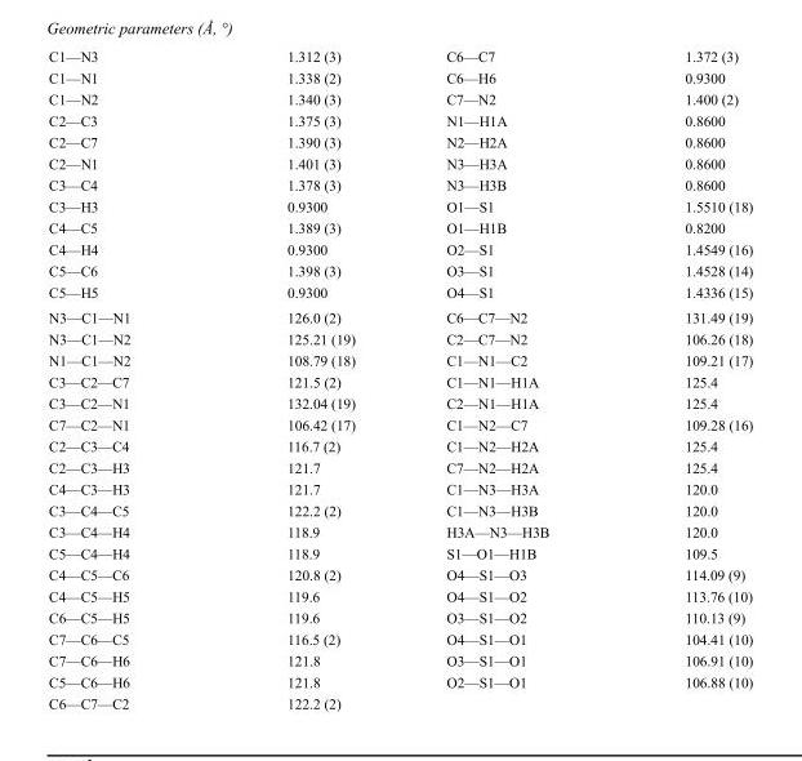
<table><tbody><tr><td>C1—N3</td><td>1.312 (3)</td><td>C6—C7</td><td>1.372 (3)</td></tr><tr><td>C1—N1</td><td>1.338 (2)</td><td>C6—H6</td><td>0.9300</td></tr><tr><td>C1—N2</td><td>1.340 (3)</td><td>C7—N2</td><td>1.400 (2)</td></tr><tr><td>C2—C3</td><td>1.375 (3)</td><td>N1—H1A</td><td>0.8600</td></tr><tr><td>C2—C7</td><td>1.390 (3)</td><td>N2—H2A</td><td>0.8600</td></tr><tr><td>C2—N1</td><td>1.401 (3)</td><td>N3—H3A</td><td>0.8600</td></tr><tr><td>C3—C4</td><td>1.378 (3)</td><td>N3—H3B</td><td>0.8600</td></tr><tr><td>C3—H3</td><td>0.9300</td><td>O1—S1</td><td>1.5510 (18)</td></tr><tr><td>C4—C5</td><td>1.389 (3)</td><td>O1—H1B</td><td>0.8200</td></tr><tr><td>C4—H4</td><td>0.9300</td><td>O2—S1</td><td>1.4549 (16)</td></tr><tr><td>C5—C6</td><td>1.398 (3)</td><td>O3—S1</td><td>1.4528 (14)</td></tr><tr><td>C5—H5</td><td>0.9300</td><td>O4—S1</td><td>1.4336 (15)</td></tr><tr><td>N3—C1—N1</td><td>126.0 (2)</td><td>C6—C7—N2</td><td>131.49 (19)</td></tr><tr><td>N3—C1—N2</td><td>125.21 (19)</td><td>C2—C7—N2</td><td>106.26 (18)</td></tr><tr><td>N1—C1—N2</td><td>108.79 (18)</td><td>C1—N1—C2</td><td>109.21 (17)</td></tr><tr><td>C3—C2—C7</td><td>121.5 (2)</td><td>C1—N1—H1A</td><td>125.4</td></tr><tr><td>C3—C2—N1</td><td>132.04 (19)</td><td>C2—N1—H1A</td><td>125.4</td></tr><tr><td>C7—C2—N1</td><td>106.42 (17)</td><td>C1—N2—C7</td><td>109.28 (16)</td></tr><tr><td>C2—C3—C4</td><td>116.7 (2)</td><td>C1—N2—H2A</td><td>125.4</td></tr><tr><td>C2—C3—H3</td><td>121.7</td><td>C7—N2—H2A</td><td>125.4</td></tr><tr><td>C4—C3—H3</td><td>121.7</td><td>C1—N3—H3A</td><td>120.0</td></tr><tr><td>C3—C4—C5</td><td>122.2 (2)</td><td>C1—N3—H3B</td><td>120.0</td></tr><tr><td>C3—C4—H4</td><td>118.9</td><td>H3A—N3—H3B</td><td>120.0</td></tr><tr><td>C5—C4—H4</td><td>118.9</td><td>S1—O1—H1B</td><td>109.5</td></tr><tr><td>C4—C5—C6</td><td>120.8 (2)</td><td>O4—S1—O3</td><td>114.09 (9)</td></tr><tr><td>C4—C5—H5</td><td>119.6</td><td>O4—S1—O2</td><td>113.76 (10)</td></tr><tr><td>C6—C5—H5</td><td>119.6</td><td>O3—S1—O2</td><td>110.13 (9)</td></tr><tr><td>C7—C6—C5</td><td>116.5 (2)</td><td>O4—S1—O1</td><td>104.41 (10)</td></tr><tr><td>C7—C6—H6</td><td>121.8</td><td>O3—S1—O1</td><td>106.91 (10)</td></tr><tr><td>C5—C6—H6</td><td>121.8</td><td>O2—S1—O1</td><td>106.88 (10)</td></tr><tr><td>C6—C7—C2</td><td>122.2 (2)</td><td></td><td></td></tr></tbody></table>